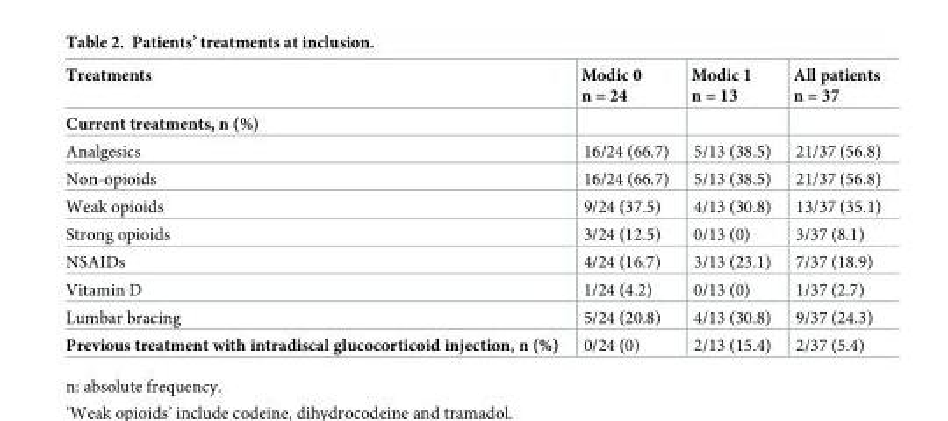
<table><thead><tr><td>Treatments</td><td>Modic 0 n = 24</td><td>Modic 1 n = 13</td><td>All patients n = 37</td></tr></thead><tbody><tr><td colspan="4">Current treatments, n (%)</td></tr><tr><td>Analgesics</td><td>16/24 (66.7)</td><td>5/13 (38.5)</td><td>21/37 (56.8)</td></tr><tr><td>Non-opioids</td><td>16/24 (66.7)</td><td>5/13 (38.5)</td><td>21/37 (56.8)</td></tr><tr><td>Weak opioids</td><td>9/24 (37.5)</td><td>4/13 (30.8)</td><td>13/37 (35.1)</td></tr><tr><td>Strong opioids</td><td>3/24 (12.5)</td><td>0/13 (0)</td><td>3/37 (8.1)</td></tr><tr><td>NSAIDs</td><td>4/24 (16.7)</td><td>3/13 (23.1)</td><td>7/37 (18.9)</td></tr><tr><td>Vitamin D</td><td>1/24 (4.2)</td><td>0/13 (0)</td><td>1/37 (2.7)</td></tr><tr><td>Lumbar bracing</td><td>5/24 (20.8)</td><td>4/13 (30.8)</td><td>9/37 (24.3)</td></tr><tr><td>Previous treatment with intradiscal glucocorticoid injection, n (%)</td><td>0/24 (0)</td><td>2/13 (15.4)</td><td>2/37 (5.4)</td></tr></tbody></table>